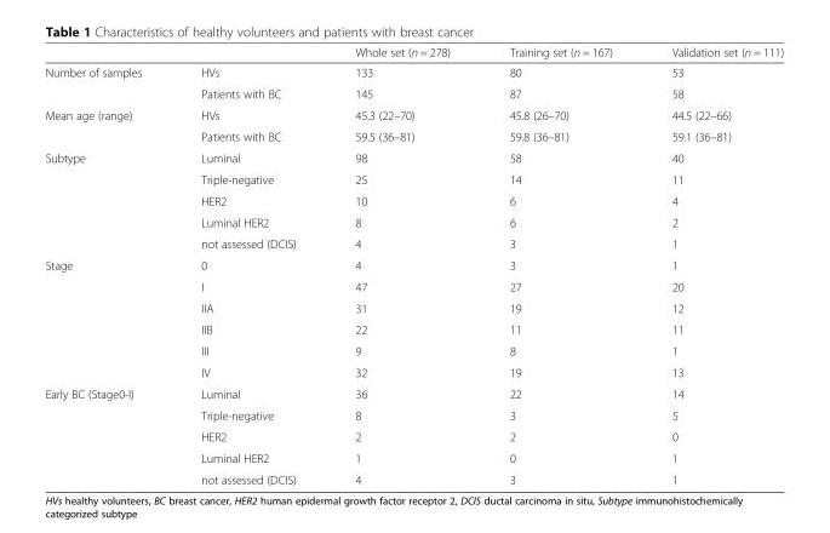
<table><thead><tr><td></td><td></td><td>Whole set (n = 278)</td><td>Training set (n = 167)</td><td>Validation set (n = 111)</td></tr></thead><tbody><tr><td rowspan="2">Number of samples</td><td>HVs</td><td>133</td><td>80</td><td>53</td></tr><tr><td>Patients with BC</td><td>145</td><td>87</td><td>58</td></tr><tr><td rowspan="2">Mean age (range)</td><td>HVs</td><td>45.3 (22–70)</td><td>45.8 (26–70)</td><td>44.5 (22–66)</td></tr><tr><td>Patients with BC</td><td>59.5 (36–81)</td><td>59.8 (36–81)</td><td>59.1 (36–81)</td></tr><tr><td rowspan="5">Subtype</td><td>Luminal</td><td>98</td><td>58</td><td>40</td></tr><tr><td>Triple-negative</td><td>25</td><td>14</td><td>11</td></tr><tr><td>HER2</td><td>10</td><td>6</td><td>4</td></tr><tr><td>Luminal HER2</td><td>8</td><td>6</td><td>2</td></tr><tr><td>not assessed (DCIS)</td><td>4</td><td>3</td><td>1</td></tr><tr><td rowspan="6">Stage</td><td>0</td><td>4</td><td>3</td><td>1</td></tr><tr><td>I</td><td>47</td><td>27</td><td>20</td></tr><tr><td>IIA</td><td>31</td><td>19</td><td>12</td></tr><tr><td>IIB</td><td>22</td><td>11</td><td>11</td></tr><tr><td>III</td><td>9</td><td>8</td><td>1</td></tr><tr><td>IV</td><td>32</td><td>19</td><td>13</td></tr><tr><td rowspan="5">Early BC (Stage0-I)</td><td>Luminal</td><td>36</td><td>22</td><td>14</td></tr><tr><td>Triple-negative</td><td>8</td><td>3</td><td>5</td></tr><tr><td>HER2</td><td>2</td><td>2</td><td>0</td></tr><tr><td>Luminal HER2</td><td>1</td><td>0</td><td>1</td></tr><tr><td>not assessed (DCIS)</td><td>4</td><td>3</td><td>1</td></tr></tbody></table>